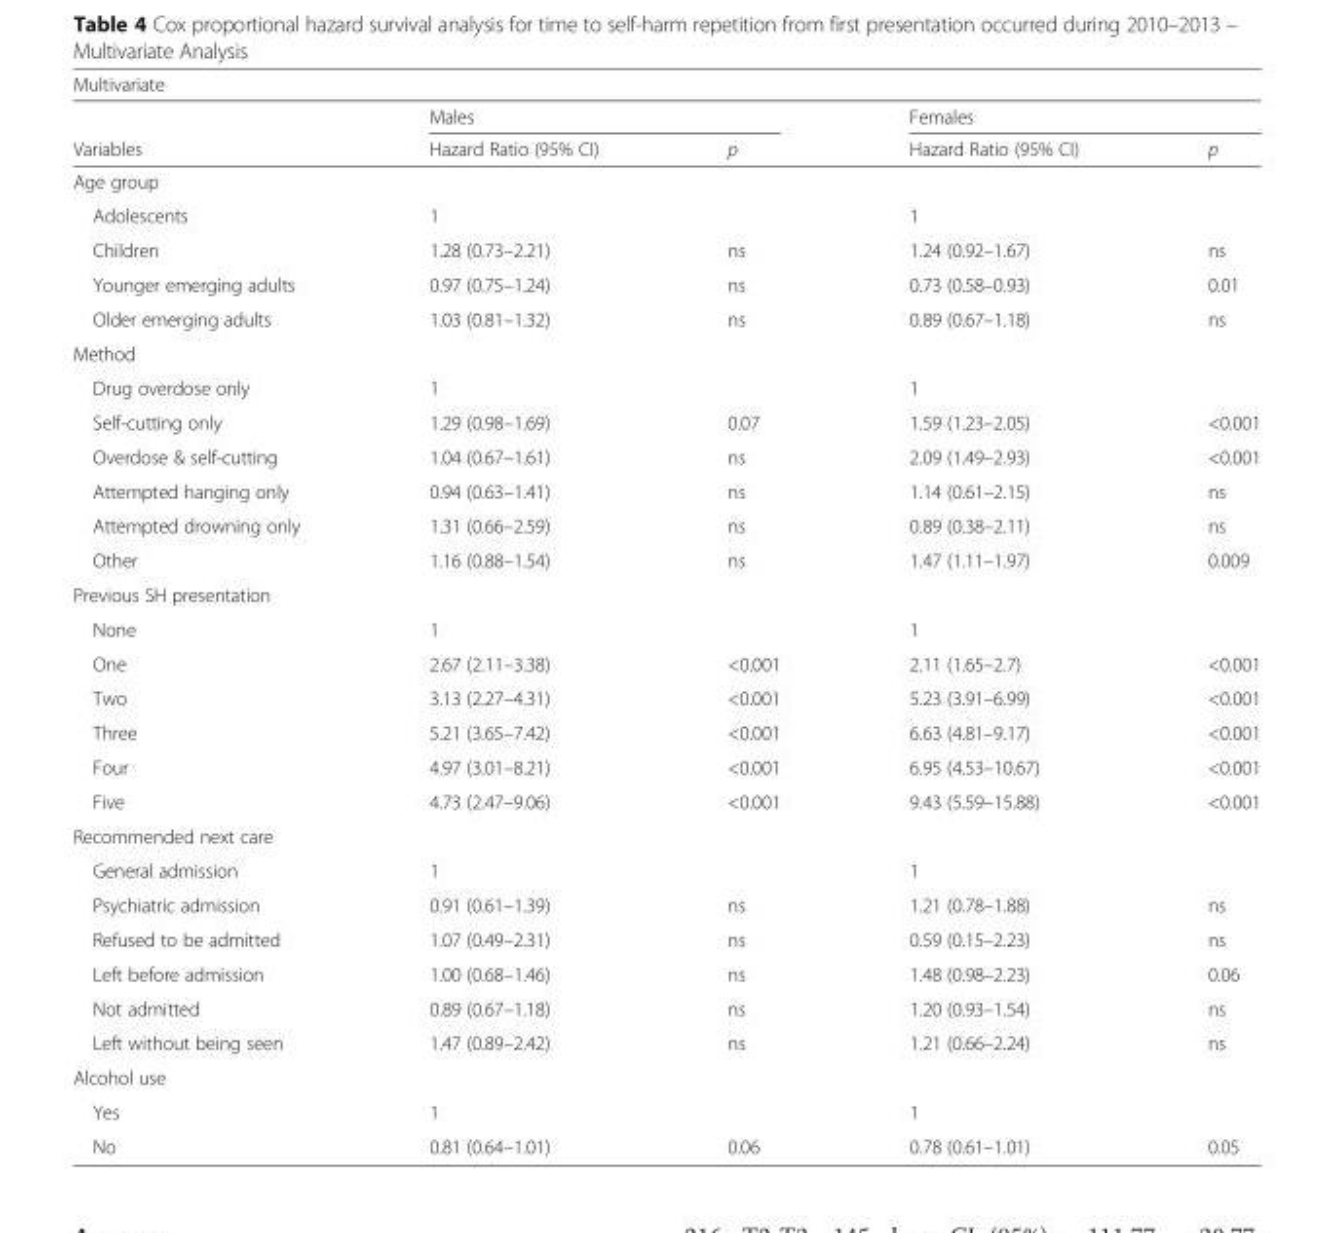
<table><thead><tr><td colspan="5">Multivariate</td></tr><tr><td rowspan="2">Variables</td><td colspan="2">Males</td><td colspan="2">Females</td></tr><tr><td>Hazard Ratio (95% CI)</td><td>p</td><td>Hazard Ratio (95% CI)</td><td>p</td></tr></thead><tbody><tr><td colspan="5">Age group</td></tr><tr><td>Adolescents</td><td>1</td><td></td><td>1</td><td></td></tr><tr><td>Children</td><td>1.28 (0.73–2.21)</td><td>ns</td><td>1.24 (0.92–1.67)</td><td>ns</td></tr><tr><td>Younger emerging adults</td><td>0.97 (0.75–1.24)</td><td>ns</td><td>0.73 (0.58–0.93)</td><td>0.01</td></tr><tr><td>Older emerging adults</td><td>1.03 (0.81–1.32)</td><td>ns</td><td>0.89 (0.67–1.18)</td><td>ns</td></tr><tr><td colspan="5">Method</td></tr><tr><td>Drug overdose only</td><td>1</td><td></td><td>1</td><td></td></tr><tr><td>Self-cutting only</td><td>1.29 (0.98–1.69)</td><td>0.07</td><td>1.59 (1.23–2.05)</td><td>&lt;0.001</td></tr><tr><td>Overdose &amp; self-cutting</td><td>1.04 (0.67–1.61)</td><td>ns</td><td>2.09 (1.49–2.93)</td><td>&lt;0.001</td></tr><tr><td>Attempted hanging only</td><td>0.94 (0.63–1.41)</td><td>ns</td><td>1.14 (0.61–2.15)</td><td>ns</td></tr><tr><td>Attempted drowning only</td><td>1.31 (0.66–2.59)</td><td>ns</td><td>0.89 (0.38–2.11)</td><td>ns</td></tr><tr><td>Other</td><td>1.16 (0.88–1.54)</td><td>ns</td><td>1.47 (1.11–1.97)</td><td>0.009</td></tr><tr><td colspan="5">Previous SH presentation</td></tr><tr><td>None</td><td>1</td><td></td><td>1</td><td></td></tr><tr><td>One</td><td>2.67 (2.11–3.38)</td><td>&lt;0.001</td><td>2.11 (1.65–2.7)</td><td>&lt;0.001</td></tr><tr><td>Two</td><td>3.13 (2.27–4.31)</td><td>&lt;0.001</td><td>5.23 (3.91–6.99)</td><td>&lt;0.001</td></tr><tr><td>Three</td><td>5.21 (3.65–7.42)</td><td>&lt;0.001</td><td>6.63 (4.81–9.17)</td><td>&lt;0.001</td></tr><tr><td>Four</td><td>4.97 (3.01–8.21)</td><td>&lt;0.001</td><td>6.95 (4.53–10.67)</td><td>&lt;0.001</td></tr><tr><td>Five</td><td>4.73 (2.47–9.06)</td><td>&lt;0.001</td><td>9.43 (5.59–15.88)</td><td>&lt;0.001</td></tr><tr><td colspan="5">Recommended next care</td></tr><tr><td>General admission</td><td>1</td><td></td><td>1</td><td></td></tr><tr><td>Psychiatric admission</td><td>0.91 (0.61–1.39)</td><td>ns</td><td>1.21 (0.78–1.88)</td><td>ns</td></tr><tr><td>Refused to be admitted</td><td>1.07 (0.49–2.31)</td><td>ns</td><td>0.59 (0.15–2.23)</td><td>ns</td></tr><tr><td>Left before admission</td><td>1.00 (0.68–1.46)</td><td>ns</td><td>1.48 (0.98–2.23)</td><td>0.06</td></tr><tr><td>Not admitted</td><td>0.89 (0.67–1.18)</td><td>ns</td><td>1.20 (0.93–1.54)</td><td>ns</td></tr><tr><td>Left without being seen</td><td>1.47 (0.89–2.42)</td><td>ns</td><td>1.21 (0.66–2.24)</td><td>ns</td></tr><tr><td colspan="5">Alcohol use</td></tr><tr><td>Yes</td><td>1</td><td></td><td>1</td><td></td></tr><tr><td>No</td><td>0.81 (0.64–1.01)</td><td>0.06</td><td>0.78 (0.61–1.01)</td><td>0.05</td></tr></tbody></table>